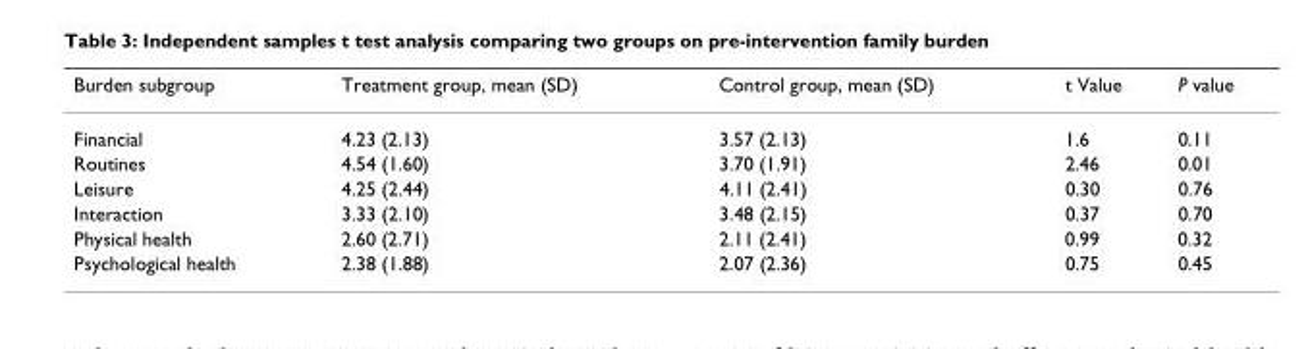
<table><thead><tr><td>Burden subgroup</td><td>Treatment group, mean (SD)</td><td>Control group, mean (SD)</td><td>t Value</td><td>P value</td></tr></thead><tbody><tr><td>Financial</td><td>4.23 (2.13)</td><td>3.57 (2.13)</td><td>1.6</td><td>0.11</td></tr><tr><td>Routines</td><td>4.54 (1.60)</td><td>3.70 (1.91)</td><td>2.46</td><td>0.01</td></tr><tr><td>Leisure</td><td>4.25 (2.44)</td><td>4.11 (2.41)</td><td>0.30</td><td>0.76</td></tr><tr><td>Interaction</td><td>3.33 (2.10)</td><td>3.48 (2.15)</td><td>0.37</td><td>0.70</td></tr><tr><td>Physical health</td><td>2.60 (2.71)</td><td>2.11 (2.41)</td><td>0.99</td><td>0.32</td></tr><tr><td>Psychological health</td><td>2.38 (1.88)</td><td>2.07 (2.36)</td><td>0.75</td><td>0.45</td></tr></tbody></table>